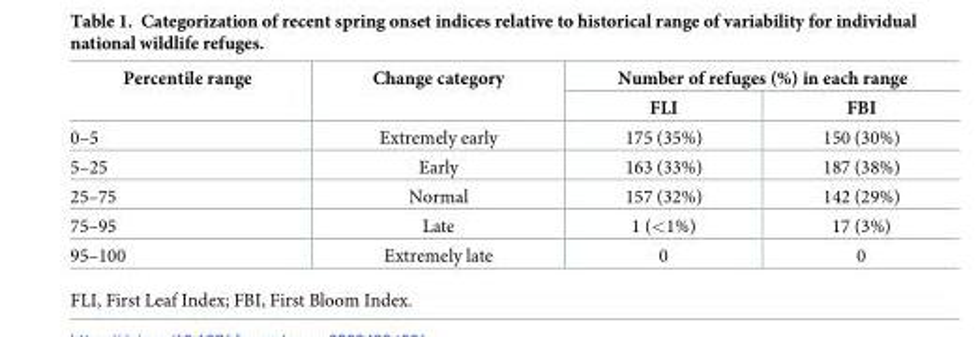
<table><thead><tr><td rowspan="2">Percentile range</td><td rowspan="2">Change category</td><td colspan="2">Number of refuges (%) in each range</td></tr><tr><td>FLI</td><td>FBI</td></tr></thead><tbody><tr><td>0–5</td><td>Extremely early</td><td>175 (35%)</td><td>150 (30%)</td></tr><tr><td>5–25</td><td>Early</td><td>163 (33%)</td><td>187 (38%)</td></tr><tr><td>25–75</td><td>Normal</td><td>157 (32%)</td><td>142 (29%)</td></tr><tr><td>75–95</td><td>Late</td><td>1 (&lt;1%)</td><td>17 (3%)</td></tr><tr><td>95–100</td><td>Extremely late</td><td>0</td><td>0</td></tr></tbody></table>